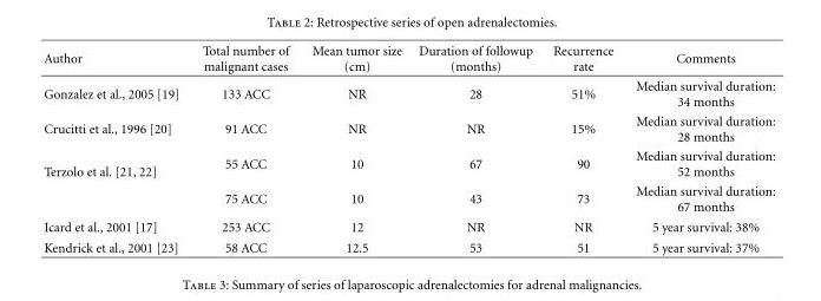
<table><thead><tr><td>Author</td><td>Total number of malignant cases</td><td>Mean tumor size (cm)</td><td>Duration of followup (months)</td><td>Recurrence rate</td><td>Comments</td></tr></thead><tbody><tr><td>Gonzalez et al., 2005 [19]</td><td>133 ACC</td><td>NR</td><td>28</td><td>51%</td><td>Median survival duration: 34 months</td></tr><tr><td>Crucitti et al., 1996 [20]</td><td>91 ACC</td><td>NR</td><td>NR</td><td>15%</td><td>Median survival duration: 28 months</td></tr><tr><td rowspan="2">Terzolo et al. [21, 22]</td><td>55 ACC</td><td>10</td><td>67</td><td>90</td><td>Median survival duration: 52 months</td></tr><tr><td>75 ACC</td><td>10</td><td>43</td><td>73</td><td>Median survival duration: 67 months</td></tr><tr><td>Icard et al., 2001 [17]</td><td>253 ACC</td><td>12</td><td>NR</td><td>NR</td><td>5 year survival: 38%</td></tr><tr><td>Kendrick et al., 2001 [23]</td><td>58 ACC</td><td>12.5</td><td>53</td><td>51</td><td>5 year survival: 37%</td></tr></tbody></table>